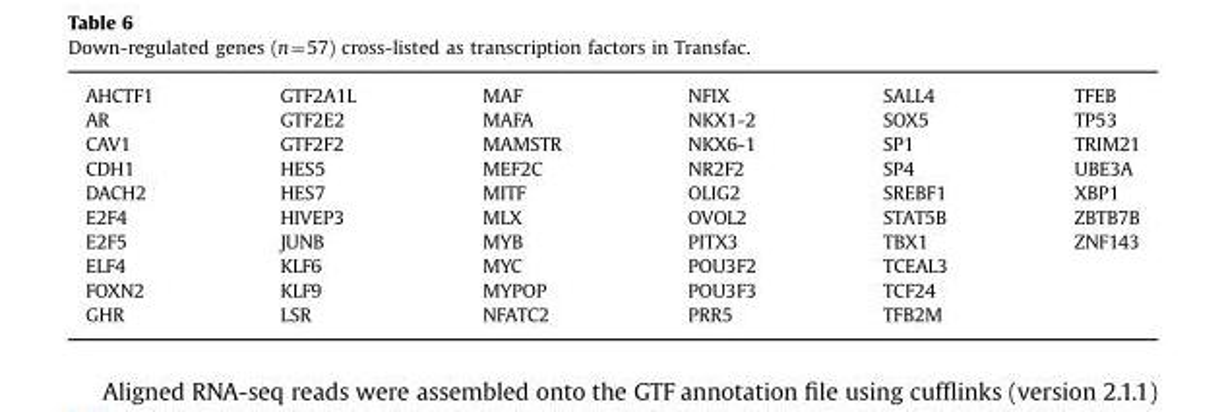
<table><tbody><tr><td>AHCTF1</td><td>GTF2A1L</td><td>MAF</td><td>NFIX</td><td>SALL4</td><td>TFEB</td></tr><tr><td>AR</td><td>GTF2E2</td><td>MAFA</td><td>NKX1-2</td><td>SOX5</td><td>TP53</td></tr><tr><td>CAV1</td><td>GTF2F2</td><td>MAMSTR</td><td>NKX6-1</td><td>SP1</td><td>TRIM21</td></tr><tr><td>CDH1</td><td>HES5</td><td>MEF2C</td><td>NR2F2</td><td>SP4</td><td>UBE3A</td></tr><tr><td>DACH2</td><td>HES7</td><td>MITF</td><td>OLIG2</td><td>SREBF1</td><td>XBP1</td></tr><tr><td>E2F4</td><td>HIVEP3</td><td>MLX</td><td>OVOL2</td><td>STAT5B</td><td>ZBTB7B</td></tr><tr><td>E2F5</td><td>JUNB</td><td>MYB</td><td>PITX3</td><td>TBX1</td><td>ZNF143</td></tr><tr><td>ELF4</td><td>KLF6</td><td>MYC</td><td>POU3F2</td><td>TCEAL3</td><td></td></tr><tr><td>FOXN2</td><td>KLF9</td><td>MYPOP</td><td>POU3F3</td><td>TCF24</td><td></td></tr><tr><td>GHR</td><td>LSR</td><td>NFATC2</td><td>PRR5</td><td>TFB2M</td><td></td></tr></tbody></table>